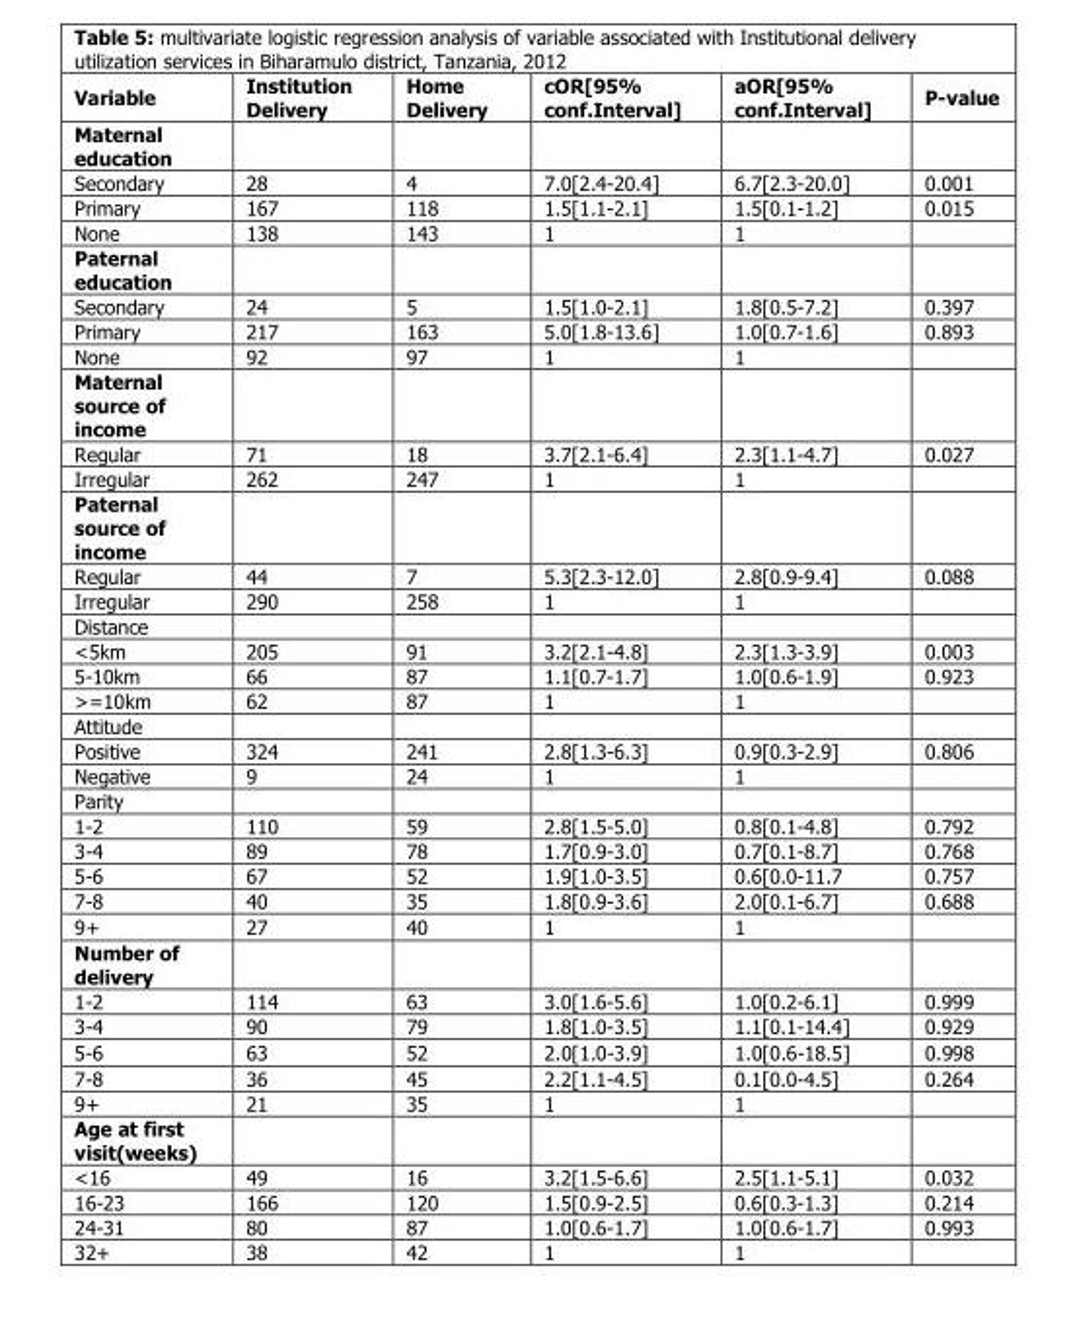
<table><thead><tr><td>Variable</td><td>Institution Delivery</td><td>Home Delivery</td><td>cOR[95% conf.Interval]</td><td>aOR[95% conf.Interval]</td><td>P-value</td></tr></thead><tbody><tr><td colspan="6">Maternal education</td></tr><tr><td>Secondary</td><td>28</td><td>4</td><td>7.0[2.4-20.4]</td><td>6.7[2.3-20.0]</td><td>0.001</td></tr><tr><td>Primary</td><td>167</td><td>118</td><td>1.5[1.1-2.1]</td><td>1.5[0.1-1.2]</td><td>0.015</td></tr><tr><td>None</td><td>138</td><td>143</td><td>1</td><td>1</td><td></td></tr><tr><td colspan="6">Paternal education</td></tr><tr><td>Secondary</td><td>24</td><td>5</td><td>1.5[1.0-2.1]</td><td>1.8[0.5-7.2]</td><td>0.397</td></tr><tr><td>Primary</td><td>217</td><td>163</td><td>5.0[1.8-13.6]</td><td>1.0[0.7-1.6]</td><td>0.893</td></tr><tr><td>None</td><td>92</td><td>97</td><td>1</td><td>1</td><td></td></tr><tr><td colspan="6">Maternal source of income</td></tr><tr><td>Regular</td><td>71</td><td>18</td><td>3.7[2.1-6.4]</td><td>2.3[1.1-4.7]</td><td>0.027</td></tr><tr><td>Irregular</td><td>262</td><td>247</td><td>1</td><td>1</td><td></td></tr><tr><td colspan="6">Paternal source of income</td></tr><tr><td>Regular</td><td>44</td><td>7</td><td>5.3[2.3-12.0]</td><td>2.8[0.9-9.4]</td><td>0.088</td></tr><tr><td>Irregular</td><td>290</td><td>258</td><td>1</td><td>1</td><td></td></tr><tr><td colspan="6">Distance</td></tr><tr><td>&lt;5km</td><td>205</td><td>91</td><td>3.2[2.1-4.8]</td><td>2.3[1.3-3.9]</td><td>0.003</td></tr><tr><td>5-10km</td><td>66</td><td>87</td><td>1.1[0.7-1.7]</td><td>1.0[0.6-1.9]</td><td>0.923</td></tr><tr><td>&gt;=10km</td><td>62</td><td>87</td><td>1</td><td>1</td><td></td></tr><tr><td colspan="6">Attitude</td></tr><tr><td>Positive</td><td>324</td><td>241</td><td>2.8[1.3-6.3]</td><td>0.9[0.3-2.9]</td><td>0.806</td></tr><tr><td>Negative</td><td>9</td><td>24</td><td>1</td><td>1</td><td></td></tr><tr><td colspan="6">Parity</td></tr><tr><td>1-2</td><td>110</td><td>59</td><td>2.8[1.5-5.0]</td><td>0.8[0.1-4.8]</td><td>0.792</td></tr><tr><td>3-4</td><td>89</td><td>78</td><td>1.7[0.9-3.0]</td><td>0.7[0.1-8.7]</td><td>0.768</td></tr><tr><td>5-6</td><td>67</td><td>52</td><td>1.9[1.0-3.5]</td><td>0.6[0.0-11.7</td><td>0.757</td></tr><tr><td>7-8</td><td>40</td><td>35</td><td>1.8[0.9-3.6]</td><td>2.0[0.1-6.7]</td><td>0.688</td></tr><tr><td>9+</td><td>27</td><td>40</td><td>1</td><td>1</td><td></td></tr><tr><td colspan="6">Number of delivery</td></tr><tr><td>1-2</td><td>114</td><td>63</td><td>3.0[1.6-5.6]</td><td>1.0[0.2-6.1]</td><td>0.999</td></tr><tr><td>3-4</td><td>90</td><td>79</td><td>1.8[1.0-3.5]</td><td>1.1[0.1-14.4]</td><td>0.929</td></tr><tr><td>5-6</td><td>63</td><td>52</td><td>2.0[1.0-3.9]</td><td>1.0[0.6-18.5]</td><td>0.998</td></tr><tr><td>7-8</td><td>36</td><td>45</td><td>2.2[1.1-4.5]</td><td>0.1[0.0-4.5]</td><td>0.264</td></tr><tr><td>9+</td><td>21</td><td>35</td><td>1</td><td>1</td><td></td></tr><tr><td colspan="6">Age at first visit(weeks)</td></tr><tr><td>&lt;16</td><td>49</td><td>16</td><td>3.2[1.5-6.6]</td><td>2.5[1.1-5.1]</td><td>0.032</td></tr><tr><td>16-23</td><td>166</td><td>120</td><td>1.5[0.9-2.5]</td><td>0.6[0.3-1.3]</td><td>0.214</td></tr><tr><td>24-31</td><td>80</td><td>87</td><td>1.0[0.6-1.7]</td><td>1.0[0.6-1.7]</td><td>0.993</td></tr><tr><td>32+</td><td>38</td><td>42</td><td>1</td><td>1</td><td></td></tr></tbody></table>